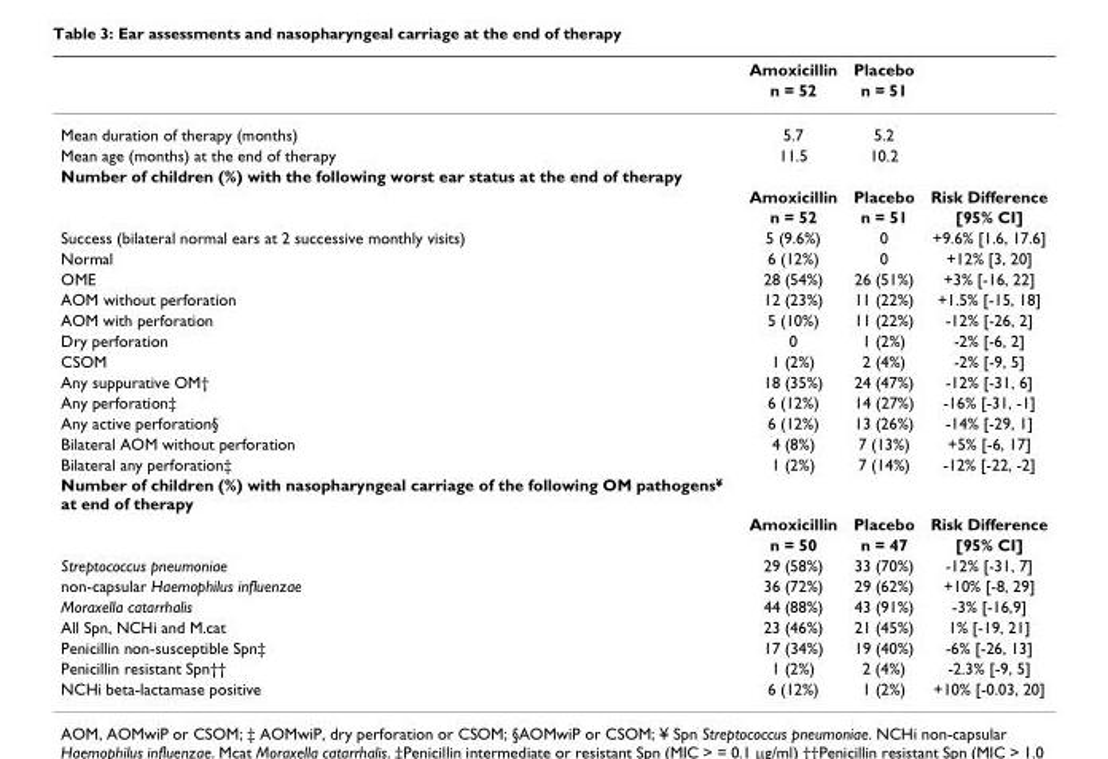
<table><thead><tr><td rowspan="2"></td><td rowspan="2">Amoxicillin n = 52</td><td rowspan="2">Placebo n = 51</td><td rowspan="2"></td></tr><tr></tr></thead><tbody><tr><td>Mean duration of therapy (months)</td><td>5.7</td><td>5.2</td><td></td></tr><tr><td>Mean age (months) at the end of therapy</td><td>11.5</td><td>10.2</td><td></td></tr><tr><td colspan="4">Number of children (%) with the following worst ear status at the end of therapy</td></tr><tr><td></td><td>Amoxicillin</td><td>Placebo</td><td>Risk Difference</td></tr><tr><td></td><td>n = 52</td><td>n = 51</td><td>[95% CI]</td></tr><tr><td>Success (bilateral normal ears at 2 successive monthly visits)</td><td>5 (9.6%)</td><td>0</td><td>+9.6% [1.6, 17.6]</td></tr><tr><td>Normal</td><td>6 (12%)</td><td>0</td><td>+12% [3, 20]</td></tr><tr><td>OME</td><td>28 (54%)</td><td>26 (51%)</td><td>+3% [-16, 22]</td></tr><tr><td>AOM without perforation</td><td>12 (23%)</td><td>11 (22%)</td><td>+1.5% [-15, 18]</td></tr><tr><td>AOM with perforation</td><td>5 (10%)</td><td>11 (22%)</td><td>-12% [-26, 2]</td></tr><tr><td>Dry perforation</td><td>0</td><td>1 (2%)</td><td>-2% [-6, 2]</td></tr><tr><td>CSOM</td><td>1 (2%)</td><td>2 (4%)</td><td>-2% [-9, 5]</td></tr><tr><td>Any suppurative OM†</td><td>18 (35%)</td><td>24 (47%)</td><td>-12% [-31, 6]</td></tr><tr><td>Any perforation‡</td><td>6 (12%)</td><td>14 (27%)</td><td>-16% [-31, -1]</td></tr><tr><td>Any active perforation§</td><td>6 (12%)</td><td>13 (26%)</td><td>-14% [-29, 1]</td></tr><tr><td>Bilateral AOM without perforation</td><td>4 (8%)</td><td>7 (13%)</td><td>+5% [-6, 17]</td></tr><tr><td>Bilateral any perforation‡</td><td>1 (2%)</td><td>7 (14%)</td><td>-12% [-22, -2]</td></tr><tr><td colspan="4">Number of children (%) with nasopharyngeal carriage of the following OM pathogens<sup>¥</sup> at end of therapy</td></tr><tr><td></td><td>Amoxicillin</td><td>Placebo</td><td>Risk Difference</td></tr><tr><td></td><td>n = 50</td><td>n = 47</td><td>[95% CI]</td></tr><tr><td>Streptococcus pneumoniae</td><td>29 (58%)</td><td>33 (70%)</td><td>-12% [-31, 7]</td></tr><tr><td>non-capsular Haemophilus influenzae</td><td>36 (72%)</td><td>29 (62%)</td><td>+10% [-8, 29]</td></tr><tr><td>Moraxella catarrhalis</td><td>44 (88%)</td><td>43 (91%)</td><td>-3% [-16,9]</td></tr><tr><td>All Spn, NCHi and M.cat</td><td>23 (46%)</td><td>21 (45%)</td><td>1% [-19, 21]</td></tr><tr><td>Penicillin non-susceptible Spn‡</td><td>17 (34%)</td><td>19 (40%)</td><td>-6% [-26, 13]</td></tr><tr><td>Penicillin resistant Spn††</td><td>1 (2%)</td><td>2 (4%)</td><td>-2.3% [-9, 5]</td></tr><tr><td>NCHi beta-lactamase positive</td><td>6 (12%)</td><td>1 (2%)</td><td>+10% [-0.03, 20]</td></tr></tbody></table>